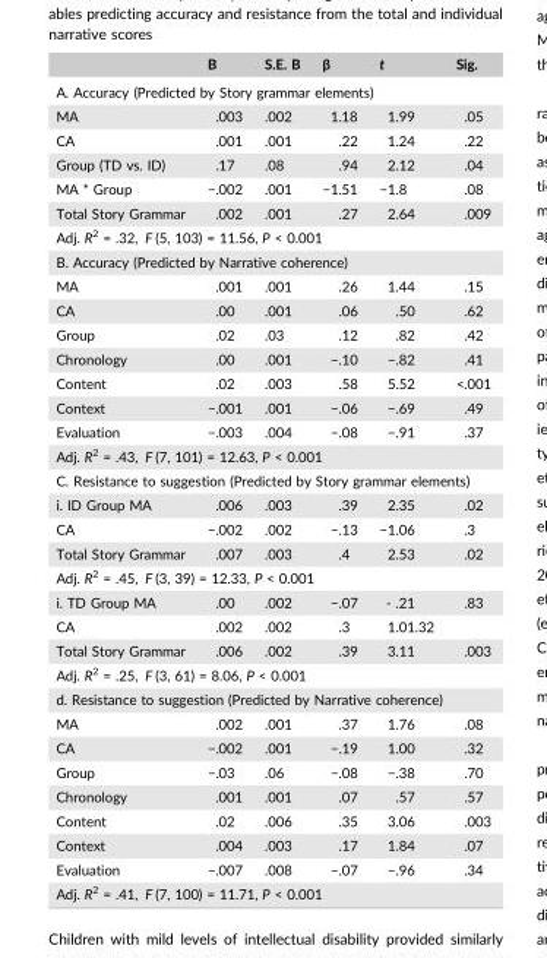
<table><thead><tr><td></td><td>B</td><td>S.E. B</td><td>β</td><td>t</td><td>Sig.</td></tr></thead><tbody><tr><td colspan="6">A. Accuracy (Predicted by Story grammar elements)</td></tr><tr><td>MA</td><td>.003</td><td>.002</td><td>1.18</td><td>1.99</td><td>.05</td></tr><tr><td>CA</td><td>.001</td><td>.001</td><td>.22</td><td>1.24</td><td>.22</td></tr><tr><td>Group (TD vs. ID)</td><td>.17</td><td>.08</td><td>.94</td><td>2.12</td><td>.04</td></tr><tr><td>MA * Group</td><td>−.002</td><td>.001</td><td>−1.51</td><td>−1.8</td><td>.08</td></tr><tr><td>Total Story Grammar</td><td>.002</td><td>.001</td><td>.27</td><td>2.64</td><td>.009</td></tr><tr><td colspan="6">Adj. R<sup>2</sup> = .32, F (5, 103) = 11.56, P &lt; 0.001</td></tr><tr><td colspan="6">B. Accuracy (Predicted by Narrative coherence)</td></tr><tr><td>MA</td><td>.001</td><td>.001</td><td>.26</td><td>1.44</td><td>.15</td></tr><tr><td>CA</td><td>.00</td><td>.001</td><td>.06</td><td>.50</td><td>.62</td></tr><tr><td>Group</td><td>.02</td><td>.03</td><td>.12</td><td>.82</td><td>.42</td></tr><tr><td>Chronology</td><td>.00</td><td>.001</td><td>−.10</td><td>−.82</td><td>.41</td></tr><tr><td>Content</td><td>.02</td><td>.003</td><td>.58</td><td>5.52</td><td>&lt;.001</td></tr><tr><td>Context</td><td>−.001</td><td>.001</td><td>−.06</td><td>−.69</td><td>.49</td></tr><tr><td>Evaluation</td><td>−.003</td><td>.004</td><td>−.08</td><td>−.91</td><td>.37</td></tr><tr><td colspan="6">Adj. R<sup>2</sup> = .43, F (7, 101) = 12.63, P &lt; 0.001</td></tr><tr><td colspan="6">C. Resistance to suggestion (Predicted by Story grammar elements)</td></tr><tr><td>i. ID Group MA</td><td>.006</td><td>.003</td><td>.39</td><td>2.35</td><td>.02</td></tr><tr><td>CA</td><td>−.002</td><td>.002</td><td>−.13</td><td>−1.06</td><td>.3</td></tr><tr><td>Total Story Grammar</td><td>.007</td><td>.003</td><td>.4</td><td>2.53</td><td>.02</td></tr><tr><td colspan="6">Adj. R<sup>2</sup> = .45, F (3, 39) = 12.33, P &lt; 0.001</td></tr><tr><td>i. TD Group MA</td><td>.00</td><td>.002</td><td>−.07</td><td>‐ .21</td><td>.83</td></tr><tr><td>CA</td><td>.002</td><td>.002</td><td>.3</td><td>1.01.32</td><td></td></tr><tr><td>Total Story Grammar</td><td>.006</td><td>.002</td><td>.39</td><td>3.11</td><td>.003</td></tr><tr><td colspan="6">Adj. R<sup>2</sup> = .25, F (3, 61) = 8.06, P &lt; 0.001</td></tr><tr><td colspan="6">d. Resistance to suggestion (Predicted by Narrative coherence)</td></tr><tr><td>MA</td><td>.002</td><td>.001</td><td>.37</td><td>1.76</td><td>.08</td></tr><tr><td>CA</td><td>−.002</td><td>.001</td><td>−.19</td><td>1.00</td><td>.32</td></tr><tr><td>Group</td><td>−.03</td><td>.06</td><td>−.08</td><td>−.38</td><td>.70</td></tr><tr><td>Chronology</td><td>.001</td><td>.001</td><td>.07</td><td>.57</td><td>.57</td></tr><tr><td>Content</td><td>.02</td><td>.006</td><td>.35</td><td>3.06</td><td>.003</td></tr><tr><td>Context</td><td>.004</td><td>.003</td><td>.17</td><td>1.84</td><td>.07</td></tr><tr><td>Evaluation</td><td>−.007</td><td>.008</td><td>−.07</td><td>−.96</td><td>.34</td></tr><tr><td colspan="6">Adj. R<sup>2</sup> = .41, F (7, 100) = 11.71, P &lt; 0.001</td></tr></tbody></table>